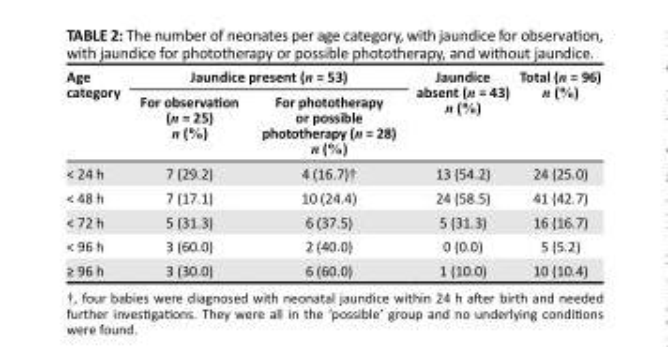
<table><thead><tr><td rowspan="2">Age category</td><td colspan="2">Jaundice present (n = 53)</td><td rowspan="2">Jaundice absent (n = 43) n (%)</td><td rowspan="2">Total (n = 96) n (%)</td></tr><tr><td>For observation (n = 25) n (%)</td><td>For phototherapy or possible phototherapy (n = 28) n (%)</td></tr></thead><tbody><tr><td>&lt; 24 h</td><td>7 (29.2)</td><td>4 (16.7)†</td><td>13 (54.2)</td><td>24 (25.0)</td></tr><tr><td>&lt; 48 h</td><td>7 (17.1)</td><td>10 (24.4)</td><td>24 (58.5)</td><td>41 (42.7)</td></tr><tr><td>&lt; 72 h</td><td>5 (31.3)</td><td>6 (37.5)</td><td>5 (31.3)</td><td>16 (16.7)</td></tr><tr><td>&lt; 96 h</td><td>3 (60.0)</td><td>2 (40.0)</td><td>0 (0.0)</td><td>5 (5.2)</td></tr><tr><td>≥ 96 h</td><td>3 (30.0)</td><td>6 (60.0)</td><td>1 (10.0)</td><td>10 (10.4)</td></tr></tbody></table>